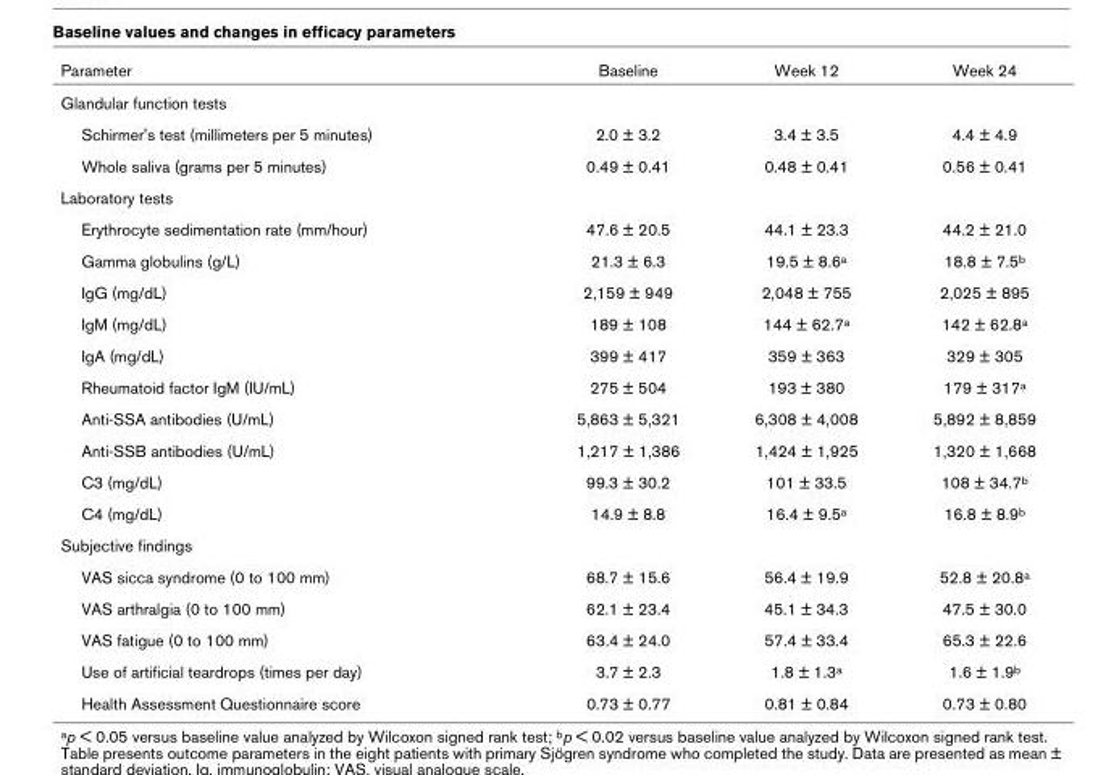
<table><thead><tr><td>Parameter</td><td>Baseline</td><td>Week 12</td><td>Week 24</td></tr></thead><tbody><tr><td colspan="4">Glandular function tests</td></tr><tr><td>Schirmer&#x27;s test (millimeters per 5 minutes)</td><td>2.0 ± 3.2</td><td>3.4 ± 3.5</td><td>4.4 ± 4.9</td></tr><tr><td>Whole saliva (grams per 5 minutes)</td><td>0.49 ± 0.41</td><td>0.48 ± 0.41</td><td>0.56 ± 0.41</td></tr><tr><td colspan="4">Laboratory tests</td></tr><tr><td>Erythrocyte sedimentation rate (mm/hour)</td><td>47.6 ± 20.5</td><td>44.1 ± 23.3</td><td>44.2 ± 21.0</td></tr><tr><td>Gamma globulins (g/L)</td><td>21.3 ± 6.3</td><td>19.5 ± 8.6<sup>a</sup></td><td>18.8 ± 7.5<sup>b</sup></td></tr><tr><td>IgG (mg/dL)</td><td>2,159 ± 949</td><td>2,048 ± 755</td><td>2,025 ± 895</td></tr><tr><td>IgM (mg/dL)</td><td>189 ± 108</td><td>144 ± 62.7<sup>a</sup></td><td>142 ± 62.8<sup>a</sup></td></tr><tr><td>IgA (mg/dL)</td><td>399 ± 417</td><td>359 ± 363</td><td>329 ± 305</td></tr><tr><td>Rheumatoid factor IgM (IU/mL)</td><td>275 ± 504</td><td>193 ± 380</td><td>179 ± 317<sup>a</sup></td></tr><tr><td>Anti-SSA antibodies (U/mL)</td><td>5,863 ± 5,321</td><td>6,308 ± 4,008</td><td>5,892 ± 8,859</td></tr><tr><td>Anti-SSB antibodies (U/mL)</td><td>1,217 ± 1,386</td><td>1,424 ± 1,925</td><td>1,320 ± 1,668</td></tr><tr><td>C3 (mg/dL)</td><td>99.3 ± 30.2</td><td>101 ± 33.5</td><td>108 ± 34.7<sup>b</sup></td></tr><tr><td>C4 (mg/dL)</td><td>14.9 ± 8.8</td><td>16.4 ± 9.5<sup>a</sup></td><td>16.8 ± 8.9<sup>b</sup></td></tr><tr><td colspan="4">Subjective findings</td></tr><tr><td>VAS sicca syndrome (0 to 100 mm)</td><td>68.7 ± 15.6</td><td>56.4 ± 19.9</td><td>52.8 ± 20.8<sup>a</sup></td></tr><tr><td>VAS arthralgia (0 to 100 mm)</td><td>62.1 ± 23.4</td><td>45.1 ± 34.3</td><td>47.5 ± 30.0</td></tr><tr><td>VAS fatigue (0 to 100 mm)</td><td>63.4 ± 24.0</td><td>57.4 ± 33.4</td><td>65.3 ± 22.6</td></tr><tr><td>Use of artificial teardrops (times per day)</td><td>3.7 ± 2.3</td><td>1.8 ± 1.3<sup>a</sup></td><td>1.6 ± 1.9<sup>b</sup></td></tr><tr><td>Health Assessment Questionnaire score</td><td>0.73 ± 0.77</td><td>0.81 ± 0.84</td><td>0.73 ± 0.80</td></tr></tbody></table>